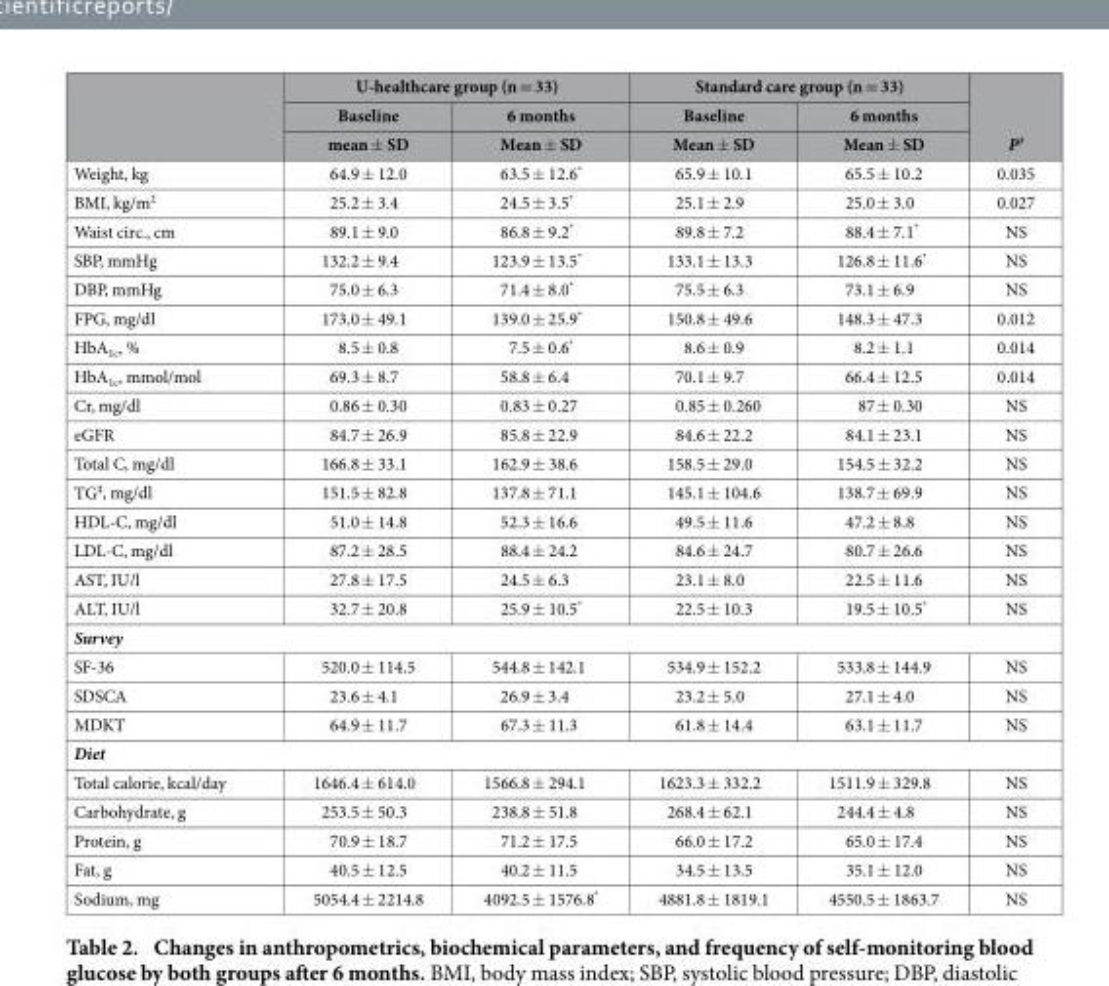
<table><thead><tr><td rowspan="3"></td><td colspan="2">U-healthcare group (n = 33)</td><td colspan="2">Standard care group (n = 33)</td><td rowspan="3">P†</td></tr><tr><td rowspan="2">Baseline mean ± SD</td><td rowspan="2">6 months Mean ± SD</td><td rowspan="2">Baseline Mean ± SD</td><td rowspan="2">6 months Mean ± SD</td></tr><tr></tr></thead><tbody><tr><td>Weight, kg</td><td>64.9 ± 12.0</td><td>63.5 ± 12.6*</td><td>65.9 ± 10.1</td><td>65.5 ± 10.2</td><td>0.035</td></tr><tr><td>BMI, kg/m<sup>2</sup></td><td>25.2 ± 3.4</td><td>24.5 ± 3.5*</td><td>25.1 ± 2.9</td><td>25.0 ± 3.0</td><td>0.027</td></tr><tr><td>Waist circ., cm</td><td>89.1 ± 9.0</td><td>86.8 ± 9.2*</td><td>89.8 ± 7.2</td><td>88.4 ± 7.1*</td><td>NS</td></tr><tr><td>SBP, mmHg</td><td>132.2 ± 9.4</td><td>123.9 ± 13.5*</td><td>133.1 ± 13.3</td><td>126.8 ± 11.6*</td><td>NS</td></tr><tr><td>DBP, mmHg</td><td>75.0 ± 6.3</td><td>71.4 ± 8.0*</td><td>75.5 ± 6.3</td><td>73.1 ± 6.9</td><td>NS</td></tr><tr><td>FPG, mg/dl</td><td>173.0 ± 49.1</td><td>139.0 ± 25.9*</td><td>150.8 ± 49.6</td><td>148.3 ± 47.3</td><td>0.012</td></tr><tr><td>HbA<sub>1c</sub>, %</td><td>8.5 ± 0.8</td><td>7.5 ± 0.6*</td><td>8.6 ± 0.9</td><td>8.2 ± 1.1</td><td>0.014</td></tr><tr><td>HbA<sub>1c</sub>, mmol/mol</td><td>69.3 ± 8.7</td><td>58.8 ± 6.4</td><td>70.1 ± 9.7</td><td>66.4 ± 12.5</td><td>0.014</td></tr><tr><td>Cr, mg/dl</td><td>0.86 ± 0.30</td><td>0.83 ± 0.27</td><td>0.85 ± 0.260</td><td>87 ± 0.30</td><td>NS</td></tr><tr><td>eGFR</td><td>84.7 ± 26.9</td><td>85.8 ± 22.9</td><td>84.6 ± 22.2</td><td>84.1 ± 23.1</td><td>NS</td></tr><tr><td>Total C, mg/dl</td><td>166.8 ± 33.1</td><td>162.9 ± 38.6</td><td>158.5 ± 29.0</td><td>154.5 ± 32.2</td><td>NS</td></tr><tr><td>TG‡, mg/dl</td><td>151.5 ± 82.8</td><td>137.8 ± 71.1</td><td>145.1 ± 104.6</td><td>138.7 ± 69.9</td><td>NS</td></tr><tr><td>HDL-C, mg/dl</td><td>51.0 ± 14.8</td><td>52.3 ± 16.6</td><td>49.5 ± 11.6</td><td>47.2 ± 8.8</td><td>NS</td></tr><tr><td>LDL-C, mg/dl</td><td>87.2 ± 28.5</td><td>88.4 ± 24.2</td><td>84.6 ± 24.7</td><td>80.7 ± 26.6</td><td>NS</td></tr><tr><td>AST, IU/l</td><td>27.8 ± 17.5</td><td>24.5 ± 6.3</td><td>23.1 ± 8.0</td><td>22.5 ± 11.6</td><td>NS</td></tr><tr><td>ALT, IU/l</td><td>32.7 ± 20.8</td><td>25.9 ± 10.5*</td><td>22.5 ± 10.3</td><td>19.5 ± 10.5*</td><td>NS</td></tr><tr><td colspan="6">Survey</td></tr><tr><td>SF-36</td><td>520.0 ± 114.5</td><td>544.8 ± 142.1</td><td>534.9 ± 152.2</td><td>533.8 ± 144.9</td><td>NS</td></tr><tr><td>SDSCA</td><td>23.6 ± 4.1</td><td>26.9 ± 3.4</td><td>23.2 ± 5.0</td><td>27.1 ± 4.0</td><td>NS</td></tr><tr><td>MDKT</td><td>64.9 ± 11.7</td><td>67.3 ± 11.3</td><td>61.8 ± 14.4</td><td>63.1 ± 11.7</td><td>NS</td></tr><tr><td colspan="6">Diet</td></tr><tr><td>Total calorie, kcal/day</td><td>1646.4 ± 614.0</td><td>1566.8 ± 294.1</td><td>1623.3 ± 332.2</td><td>1511.9 ± 329.8</td><td>NS</td></tr><tr><td>Carbohydrate, g</td><td>253.5 ± 50.3</td><td>238.8 ± 51.8</td><td>268.4 ± 62.1</td><td>244.4 ± 4.8</td><td>NS</td></tr><tr><td>Protein, g</td><td>70.9 ± 18.7</td><td>71.2 ± 17.5</td><td>66.0 ± 17.2</td><td>65.0 ± 17.4</td><td>NS</td></tr><tr><td>Fat, g</td><td>40.5 ± 12.5</td><td>40.2 ± 11.5</td><td>34.5 ± 13.5</td><td>35.1 ± 12.0</td><td>NS</td></tr><tr><td>Sodium, mg</td><td>5054.4 ± 2214.8</td><td>4092.5 ± 1576.8*</td><td>4881.8 ± 1819.1</td><td>4550.5 ± 1863.7</td><td>NS</td></tr></tbody></table>